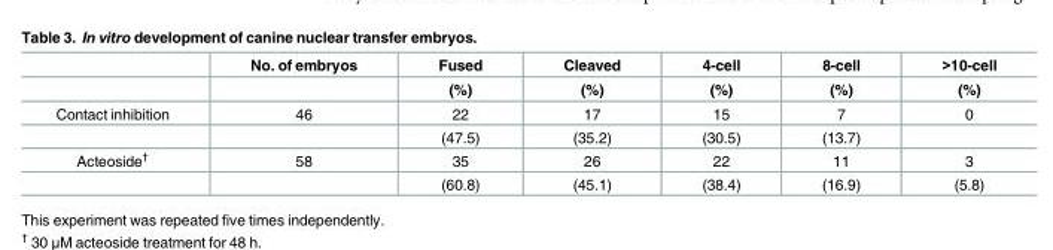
<table><thead><tr><td rowspan="2"></td><td rowspan="2">No. of embryos</td><td rowspan="2">Fused (%)</td><td rowspan="2">Cleaved (%)</td><td rowspan="2">4-cell (%)</td><td rowspan="2">8-cell (%)</td><td rowspan="2">&gt;10-cell (%)</td></tr><tr></tr></thead><tbody><tr><td rowspan="2">Contact inhibition</td><td>46</td><td>22</td><td>17</td><td>15</td><td>7</td><td>0</td></tr><tr><td></td><td>(47.5)</td><td>(35.2)</td><td>(30.5)</td><td>(13.7)</td><td></td></tr><tr><td rowspan="2">Acteoside<sup>†</sup></td><td>58</td><td>35</td><td>26</td><td>22</td><td>11</td><td>3</td></tr><tr><td></td><td>(60.8)</td><td>(45.1)</td><td>(38.4)</td><td>(16.9)</td><td>(5.8)</td></tr></tbody></table>